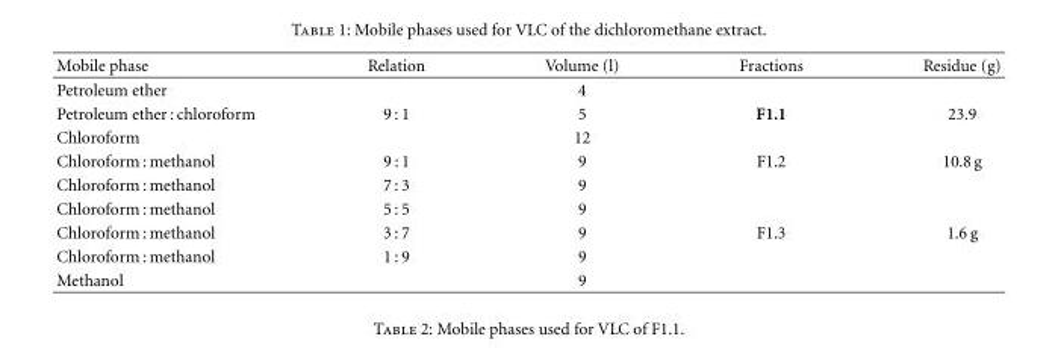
<table><thead><tr><td>Mobile phase</td><td>Relation</td><td>Volume (l)</td><td>Fractions</td><td>Residue (g)</td></tr></thead><tbody><tr><td>Petroleum ether</td><td></td><td>4</td><td></td><td></td></tr><tr><td>Petroleum ether : chloroform</td><td>9 : 1</td><td>5</td><td>F1.1</td><td>23.9</td></tr><tr><td>Chloroform</td><td></td><td>12</td><td></td><td></td></tr><tr><td>Chloroform : methanol</td><td>9 : 1</td><td>9</td><td>F1.2</td><td>10.8 g</td></tr><tr><td>Chloroform : methanol</td><td>7 : 3</td><td>9</td><td></td><td></td></tr><tr><td>Chloroform : methanol</td><td>5 : 5</td><td>9</td><td></td><td></td></tr><tr><td>Chloroform : methanol</td><td>3 : 7</td><td>9</td><td>F1.3</td><td>1.6 g</td></tr><tr><td>Chloroform : methanol</td><td>1 : 9</td><td>9</td><td></td><td></td></tr><tr><td>Methanol</td><td></td><td>9</td><td></td><td></td></tr></tbody></table>